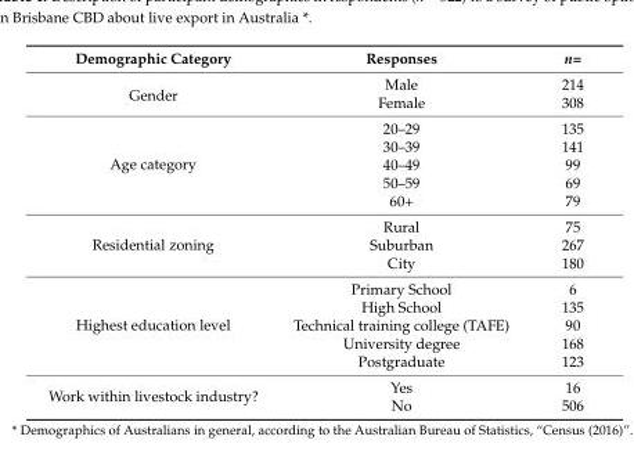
<table><thead><tr><td>Demographic Category</td><td>Responses</td><td>n=</td></tr></thead><tbody><tr><td rowspan="2">Gender</td><td>Male</td><td>214</td></tr><tr><td>Female</td><td>308</td></tr><tr><td rowspan="5">Age category</td><td>20–29</td><td>135</td></tr><tr><td>30–39</td><td>141</td></tr><tr><td>40–49</td><td>99</td></tr><tr><td>50–59</td><td>69</td></tr><tr><td>60+</td><td>79</td></tr><tr><td rowspan="3">Residential zoning</td><td>Rural</td><td>75</td></tr><tr><td>Suburban</td><td>267</td></tr><tr><td>City</td><td>180</td></tr><tr><td rowspan="5">Highest education level</td><td>Primary School</td><td>6</td></tr><tr><td>High School</td><td>135</td></tr><tr><td>Technical training college (TAFE)</td><td>90</td></tr><tr><td>University degree</td><td>168</td></tr><tr><td>Postgraduate</td><td>123</td></tr><tr><td rowspan="2">Work within livestock industry?</td><td>Yes</td><td>16</td></tr><tr><td>No</td><td>506</td></tr></tbody></table>